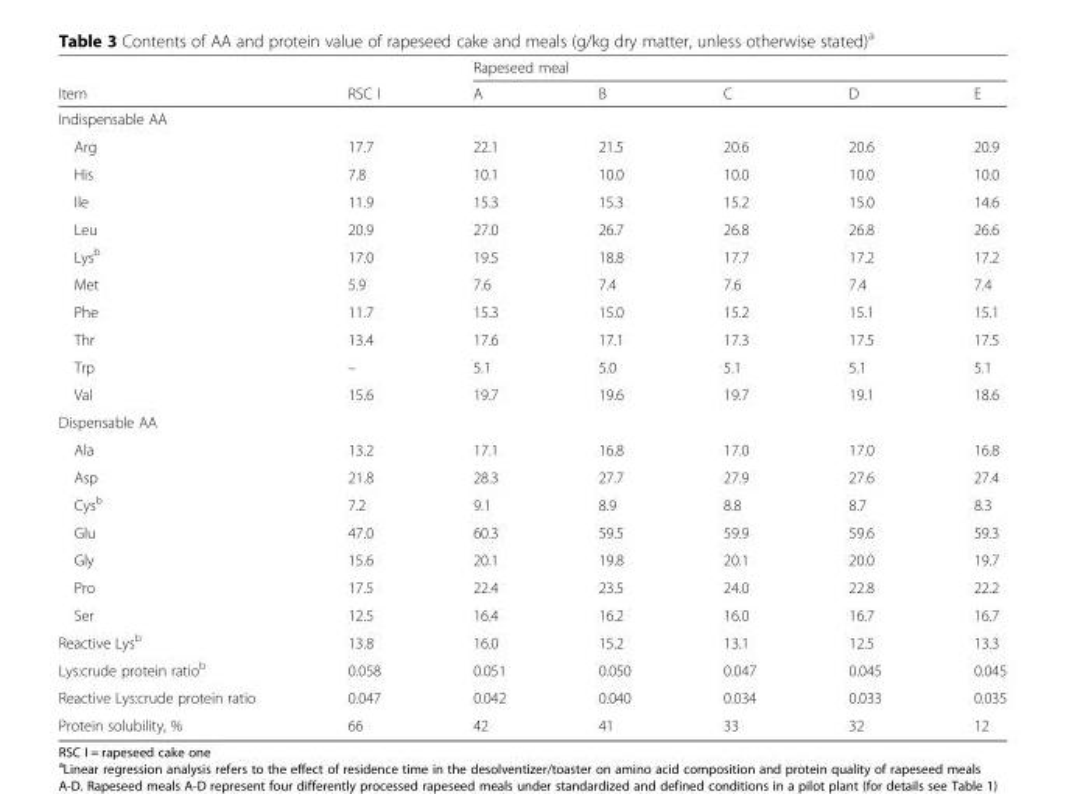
<table><thead><tr><td rowspan="2">Item</td><td rowspan="2">RSC I</td><td colspan="5">Rapeseed meal</td></tr><tr><td>A</td><td>B</td><td>C</td><td>D</td><td>E</td></tr></thead><tbody><tr><td colspan="7">Indispensable AA</td></tr><tr><td>Arg</td><td>17.7</td><td>22.1</td><td>21.5</td><td>20.6</td><td>20.6</td><td>20.9</td></tr><tr><td>His</td><td>7.8</td><td>10.1</td><td>10.0</td><td>10.0</td><td>10.0</td><td>10.0</td></tr><tr><td>Ile</td><td>11.9</td><td>15.3</td><td>15.3</td><td>15.2</td><td>15.0</td><td>14.6</td></tr><tr><td>Leu</td><td>20.9</td><td>27.0</td><td>26.7</td><td>26.8</td><td>26.8</td><td>26.6</td></tr><tr><td>Lys<sup>b</sup></td><td>17.0</td><td>19.5</td><td>18.8</td><td>17.7</td><td>17.2</td><td>17.2</td></tr><tr><td>Met</td><td>5.9</td><td>7.6</td><td>7.4</td><td>7.6</td><td>7.4</td><td>7.4</td></tr><tr><td>Phe</td><td>11.7</td><td>15.3</td><td>15.0</td><td>15.2</td><td>15.1</td><td>15.1</td></tr><tr><td>Thr</td><td>13.4</td><td>17.6</td><td>17.1</td><td>17.3</td><td>17.5</td><td>17.5</td></tr><tr><td>Trp</td><td>–</td><td>5.1</td><td>5.0</td><td>5.1</td><td>5.1</td><td>5.1</td></tr><tr><td>Val</td><td>15.6</td><td>19.7</td><td>19.6</td><td>19.7</td><td>19.1</td><td>18.6</td></tr><tr><td colspan="7">Dispensable AA</td></tr><tr><td>Ala</td><td>13.2</td><td>17.1</td><td>16.8</td><td>17.0</td><td>17.0</td><td>16.8</td></tr><tr><td>Asp</td><td>21.8</td><td>28.3</td><td>27.7</td><td>27.9</td><td>27.6</td><td>27.4</td></tr><tr><td>Cys<sup>b</sup></td><td>7.2</td><td>9.1</td><td>8.9</td><td>8.8</td><td>8.7</td><td>8.3</td></tr><tr><td>Glu</td><td>47.0</td><td>60.3</td><td>59.5</td><td>59.9</td><td>59.6</td><td>59.3</td></tr><tr><td>Gly</td><td>15.6</td><td>20.1</td><td>19.8</td><td>20.1</td><td>20.0</td><td>19.7</td></tr><tr><td>Pro</td><td>17.5</td><td>22.4</td><td>23.5</td><td>24.0</td><td>22.8</td><td>22.2</td></tr><tr><td>Ser</td><td>12.5</td><td>16.4</td><td>16.2</td><td>16.0</td><td>16.7</td><td>16.7</td></tr><tr><td>Reactive Lys<sup>b</sup></td><td>13.8</td><td>16.0</td><td>15.2</td><td>13.1</td><td>12.5</td><td>13.3</td></tr><tr><td>Lys:crude protein ratio<sup>b</sup></td><td>0.058</td><td>0.051</td><td>0.050</td><td>0.047</td><td>0.045</td><td>0.045</td></tr><tr><td>Reactive Lys:crude protein ratio</td><td>0.047</td><td>0.042</td><td>0.040</td><td>0.034</td><td>0.033</td><td>0.035</td></tr><tr><td>Protein solubility, %</td><td>66</td><td>42</td><td>41</td><td>33</td><td>32</td><td>12</td></tr></tbody></table>